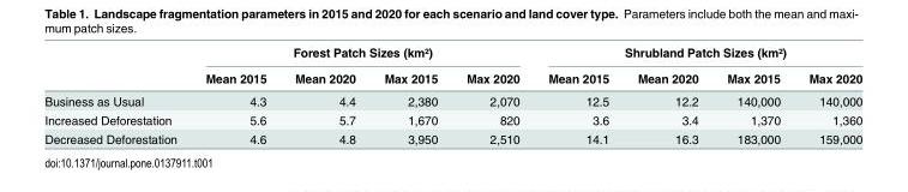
<table><thead><tr><td rowspan="2"></td><td colspan="4">Forest Patch Sizes (km²)</td><td colspan="4">Shrubland Patch Sizes (km²)</td></tr><tr><td>Mean 2015</td><td>Mean 2020</td><td>Max 2015</td><td>Max 2020</td><td>Mean 2015</td><td>Mean 2020</td><td>Max 2015</td><td>Max 2020</td></tr></thead><tbody><tr><td>Business as Usual</td><td>4.3</td><td>4.4</td><td>2,380</td><td>2,070</td><td>12.5</td><td>12.2</td><td>140,000</td><td>140,000</td></tr><tr><td>Increased Deforestation</td><td>5.6</td><td>5.7</td><td>1,670</td><td>820</td><td>3.6</td><td>3.4</td><td>1,370</td><td>1,360</td></tr><tr><td>Decreased Deforestation</td><td>4.6</td><td>4.8</td><td>3,950</td><td>2,510</td><td>14.1</td><td>16.3</td><td>183,000</td><td>159,000</td></tr></tbody></table>